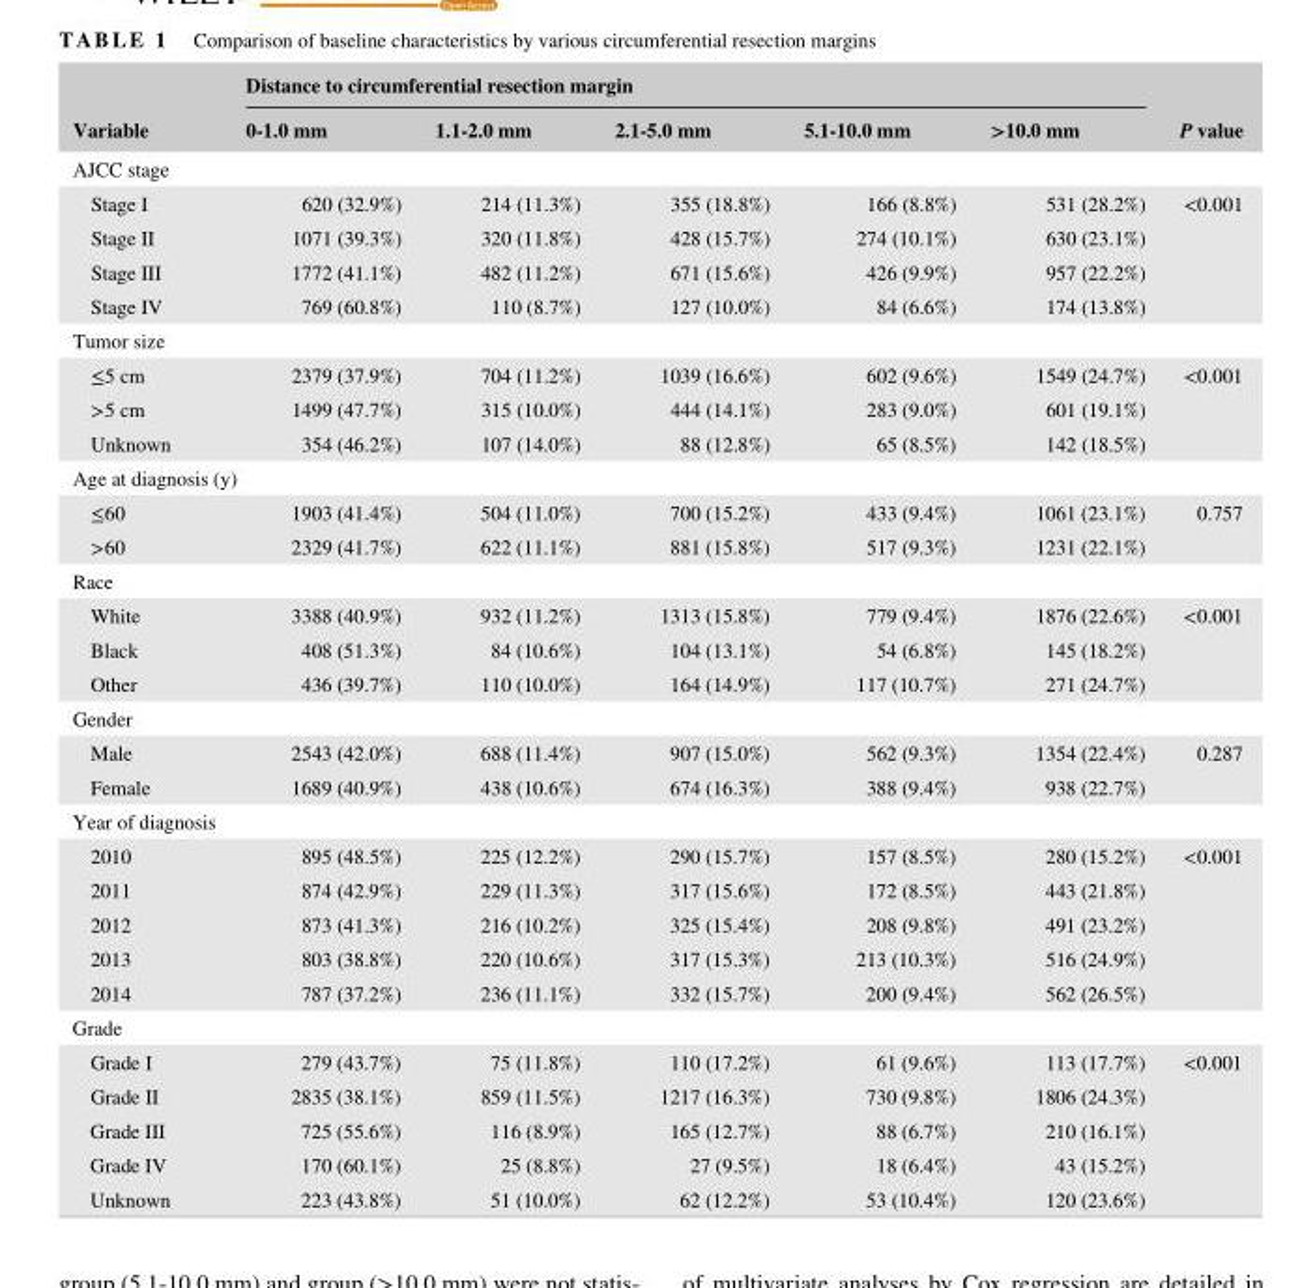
<table><thead><tr><td rowspan="2">Variable</td><td colspan="5">Distance to circumferential resection margin</td><td rowspan="2">P value</td></tr><tr><td>0- 1.0 mm</td><td>1.1- 2.0 mm</td><td>2.1- 5.0 mm</td><td>5.1- 10.0 mm</td><td>&gt;10.0 mm</td></tr></thead><tbody><tr><td colspan="7">AJCC stage</td></tr><tr><td>Stage I</td><td>620 (32.9%)</td><td>214 (11.3%)</td><td>355 (18.8%)</td><td>166 (8.8%)</td><td>531 (28.2%)</td><td rowspan="4">&lt;0.001</td></tr><tr><td>Stage II</td><td>1071 (39.3%)</td><td>320 (11.8%)</td><td>428 (15.7%)</td><td>274 (10.1%)</td><td>630 (23.1%)</td></tr><tr><td>Stage III</td><td>1772 (41.1%)</td><td>482 (11.2%)</td><td>671 (15.6%)</td><td>426 (9.9%)</td><td>957 (22.2%)</td></tr><tr><td>Stage IV</td><td>769 (60.8%)</td><td>110 (8.7%)</td><td>127 (10.0%)</td><td>84 (6.6%)</td><td>174 (13.8%)</td></tr><tr><td colspan="7">Tumor size</td></tr><tr><td>≤5 cm</td><td>2379 (37.9%)</td><td>704 (11.2%)</td><td>1039 (16.6%)</td><td>602 (9.6%)</td><td>1549 (24.7%)</td><td rowspan="3">&lt;0.001</td></tr><tr><td>&gt;5 cm</td><td>1499 (47.7%)</td><td>315 (10.0%)</td><td>444 (14.1%)</td><td>283 (9.0%)</td><td>601 (19.1%)</td></tr><tr><td>Unknown</td><td>354 (46.2%)</td><td>107 (14.0%)</td><td>88 (12.8%)</td><td>65 (8.5%)</td><td>142 (18.5%)</td></tr><tr><td colspan="7">Age at diagnosis (y)</td></tr><tr><td>≤60</td><td>1903 (41.4%)</td><td>504 (11.0%)</td><td>700 (15.2%)</td><td>433 (9.4%)</td><td>1061 (23.1%)</td><td rowspan="2">0.757</td></tr><tr><td>&gt;60</td><td>2329 (41.7%)</td><td>622 (11.1%)</td><td>881 (15.8%)</td><td>517 (9.3%)</td><td>1231 (22.1%)</td></tr><tr><td colspan="7">Race</td></tr><tr><td>White</td><td>3388 (40.9%)</td><td>932 (11.2%)</td><td>1313 (15.8%)</td><td>779 (9.4%)</td><td>1876 (22.6%)</td><td rowspan="3">&lt;0.001</td></tr><tr><td>Black</td><td>408 (51.3%)</td><td>84 (10.6%)</td><td>104 (13.1%)</td><td>54 (6.8%)</td><td>145 (18.2%)</td></tr><tr><td>Other</td><td>436 (39.7%)</td><td>110 (10.0%)</td><td>164 (14.9%)</td><td>117 (10.7%)</td><td>271 (24.7%)</td></tr><tr><td colspan="7">Gender</td></tr><tr><td>Male</td><td>2543 (42.0%)</td><td>688 (11.4%)</td><td>907 (15.0%)</td><td>562 (9.3%)</td><td>1354 (22.4%)</td><td rowspan="2">0.287</td></tr><tr><td>Female</td><td>1689 (40.9%)</td><td>438 (10.6%)</td><td>674 (16.3%)</td><td>388 (9.4%)</td><td>938 (22.7%)</td></tr><tr><td colspan="7">Year of diagnosis</td></tr><tr><td>2010</td><td>895 (48.5%)</td><td>225 (12.2%)</td><td>290 (15.7%)</td><td>157 (8.5%)</td><td>280 (15.2%)</td><td rowspan="5">&lt;0.001</td></tr><tr><td>2011</td><td>874 (42.9%)</td><td>229 (11.3%)</td><td>317 (15.6%)</td><td>172 (8.5%)</td><td>443 (21.8%)</td></tr><tr><td>2012</td><td>873 (41.3%)</td><td>216 (10.2%)</td><td>325 (15.4%)</td><td>208 (9.8%)</td><td>491 (23.2%)</td></tr><tr><td>2013</td><td>803 (38.8%)</td><td>220 (10.6%)</td><td>317 (15.3%)</td><td>213 (10.3%)</td><td>516 (24.9%)</td></tr><tr><td>2014</td><td>787 (37.2%)</td><td>236 (11.1%)</td><td>332 (15.7%)</td><td>200 (9.4%)</td><td>562 (26.5%)</td></tr><tr><td colspan="7">Grade</td></tr><tr><td>Grade I</td><td>279 (43.7%)</td><td>75 (11.8%)</td><td>110 (17.2%)</td><td>61 (9.6%)</td><td>113 (17.7%)</td><td rowspan="5">&lt;0.001</td></tr><tr><td>Grade II</td><td>2835 (38.1%)</td><td>859 (11.5%)</td><td>1217 (16.3%)</td><td>730 (9.8%)</td><td>1806 (24.3%)</td></tr><tr><td>Grade III</td><td>725 (55.6%)</td><td>116 (8.9%)</td><td>165 (12.7%)</td><td>88 (6.7%)</td><td>210 (16.1%)</td></tr><tr><td>Grade IV</td><td>170 (60.1%)</td><td>25 (8.8%)</td><td>27 (9.5%)</td><td>18 (6.4%)</td><td>43 (15.2%)</td></tr><tr><td>Unknown</td><td>223 (43.8%)</td><td>51 (10.0%)</td><td>62 (12.2%)</td><td>53 (10.4%)</td><td>120 (23.6%)</td></tr></tbody></table>